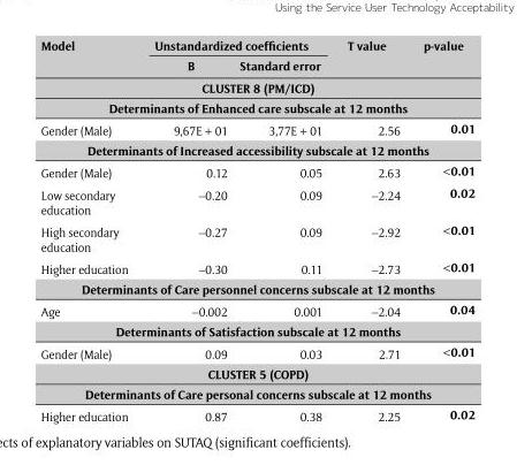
<table><thead><tr><td rowspan="2">Model</td><td colspan="2">Unstandardized coefficients</td><td rowspan="2">T value</td><td rowspan="2">p-value</td></tr><tr><td>B</td><td>Standard error</td></tr><tr><td rowspan="2" colspan="5">CLUSTER 8 (PM/ICD) Determinants of Enhanced care subscale at 12 months</td></tr><tr></tr></thead><tbody><tr><td>Gender (Male)</td><td>9,67E + 01</td><td>3,77E + 01</td><td>2.56</td><td>0.01</td></tr><tr><td colspan="5">Determinants of Increased accessibility subscale at 12 months</td></tr><tr><td>Gender (Male)</td><td>0.12</td><td>0.05</td><td>2.63</td><td>&lt;0.01</td></tr><tr><td>Low secondary education</td><td>−0.20</td><td>0.09</td><td>−2.24</td><td>0.02</td></tr><tr><td>High secondary education</td><td>−0.27</td><td>0.09</td><td>−2.92</td><td>&lt;0.01</td></tr><tr><td>Higher education</td><td>−0.30</td><td>0.11</td><td>−2.73</td><td>&lt;0.01</td></tr><tr><td colspan="5">Determinants of Care personnel concerns subscale at 12 months</td></tr><tr><td>Age</td><td>−0.002</td><td>0.001</td><td>−2.04</td><td>0.04</td></tr><tr><td colspan="5">Determinants of Satisfaction subscale at 12 months</td></tr><tr><td>Gender (Male)</td><td>0.09</td><td>0.03</td><td>2.71</td><td>&lt;0.01</td></tr><tr><td colspan="5">CLUSTER 5 (COPD)</td></tr><tr><td colspan="5">Determinants of Care personal concerns subscale at 12 months</td></tr><tr><td>Higher education</td><td>0.87</td><td>0.38</td><td>2.25</td><td>0.02</td></tr></tbody></table>